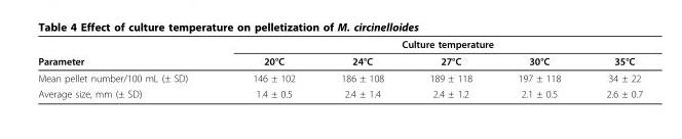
<table><thead><tr><td rowspan="2">Parameter</td><td colspan="5">Culture temperature</td></tr><tr><td>20°C</td><td>24°C</td><td>27°C</td><td>30°C</td><td>35°C</td></tr></thead><tbody><tr><td>Mean pellet number/100 mL (± SD)</td><td>146 ± 102</td><td>186 ± 108</td><td>189 ± 118</td><td>197 ± 118</td><td>34 ± 22</td></tr><tr><td>Average size, mm (± SD)</td><td>1.4 ± 0.5</td><td>2.4 ± 1.4</td><td>2.4 ± 1.2</td><td>2.1 ± 0.5</td><td>2.6 ± 0.7</td></tr></tbody></table>